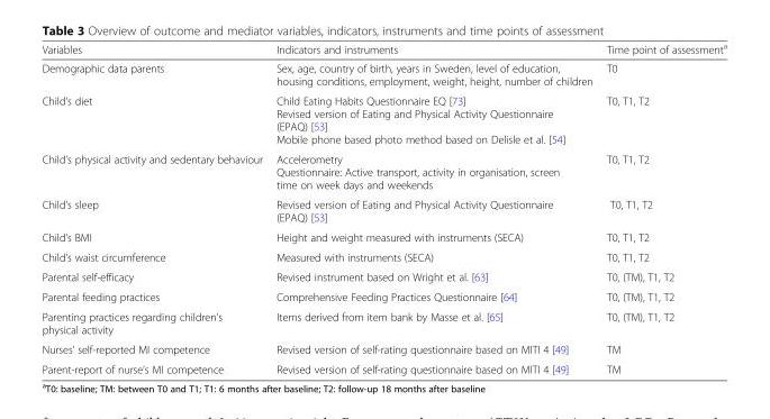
<table><thead><tr><td>Variables</td><td>Indicators and instruments</td><td>Time point of assessment<sup>a</sup></td></tr></thead><tbody><tr><td>Demographic data parents</td><td>Sex, age, country of birth, years in Sweden, level of education, housing conditions, employment, weight, height, number of children</td><td>T0</td></tr><tr><td>Child’s diet</td><td>Child Eating Habits Questionnaire EQ [73] Revised version of Eating and Physical Activity Questionnaire (EPAQ) [53] Mobile phone based photo method based on Delisle et al. [54]</td><td>T0, T1, T2</td></tr><tr><td>Child’s physical activity and sedentary behaviour</td><td>Accelerometry Questionnaire: Active transport, activity in organisation, screen time on week days and weekends</td><td>T0, T1, T2</td></tr><tr><td>Child’s sleep</td><td>Revised version of Eating and Physical Activity Questionnaire (EPAQ) [53]</td><td>T0, T1, T2</td></tr><tr><td>Child’s BMI</td><td>Height and weight measured with instruments (SECA)</td><td>T0, T1, T2</td></tr><tr><td>Child’s waist circumference</td><td>Measured with instruments (SECA)</td><td>T0, T1, T2</td></tr><tr><td>Parental self-efficacy</td><td>Revised instrument based on Wright et al. [63]</td><td>T0, (TM), T1, T2</td></tr><tr><td>Parental feeding practices</td><td>Comprehensive Feeding Practices Questionnaire [64]</td><td>T0, (TM), T1, T2</td></tr><tr><td>Parenting practices regarding children’s physical activity</td><td>Items derived from item bank by Masse et al. [65]</td><td>T0, (TM), T1, T2</td></tr><tr><td>Nurses’ self-reported MI competence</td><td>Revised version of self-rating questionnaire based on MITI 4 [49]</td><td>TM</td></tr><tr><td>Parent-report of nurse’s MI competence</td><td>Revised version of self-rating questionnaire based on MITI 4 [49]</td><td>TM</td></tr></tbody></table>